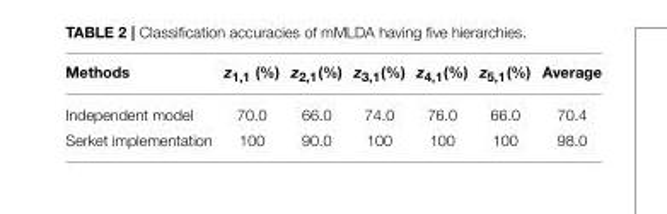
<table><thead><tr><td>Methods</td><td>z<sub>1,1</sub> (%)</td><td>z<sub>2,1</sub>(%)</td><td>z<sub>3,1</sub>(%)</td><td>z<sub>4,1</sub>(%)</td><td>z<sub>5,1</sub>(%)</td><td>Average</td></tr></thead><tbody><tr><td>Independent model</td><td>70.0</td><td>66.0</td><td>74.0</td><td>76.0</td><td>66.0</td><td>70.4</td></tr><tr><td>Serket implementation</td><td>100</td><td>90.0</td><td>100</td><td>100</td><td>100</td><td>98.0</td></tr></tbody></table>